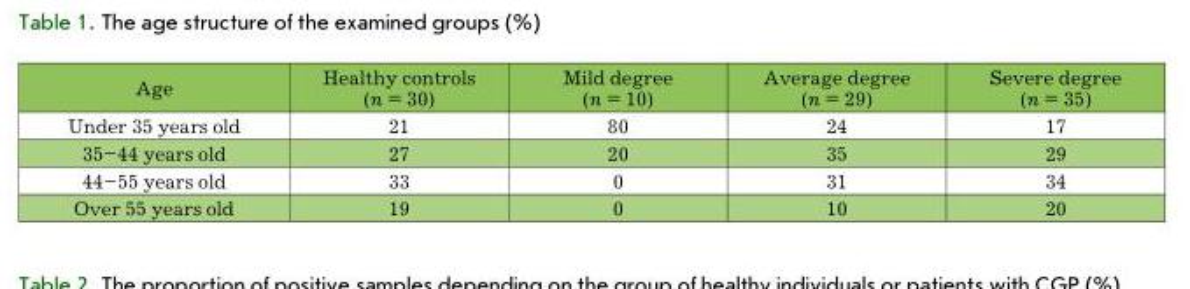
<table><thead><tr><td>Age</td><td>Healthy controls (n = 30)</td><td>Mild degree (n = 10)</td><td>Average degree (n = 29)</td><td>Severe degree (n = 35)</td></tr></thead><tbody><tr><td>Under 35 years old</td><td>21</td><td>80</td><td>24</td><td>17</td></tr><tr><td>35–44 years old</td><td>27</td><td>20</td><td>35</td><td>29</td></tr><tr><td>44–55 years old</td><td>33</td><td>0</td><td>31</td><td>34</td></tr><tr><td>Over 55 years old</td><td>19</td><td>0</td><td>10</td><td>20</td></tr></tbody></table>